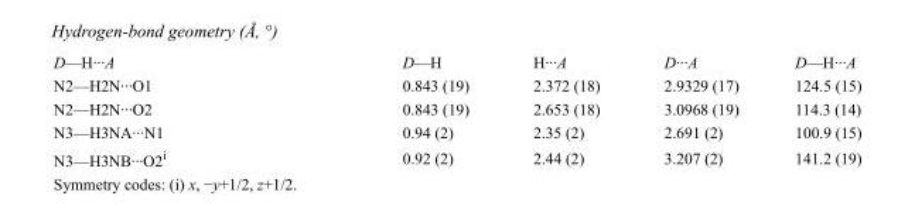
<table><tbody><tr><td>D—H···A</td><td>D—H</td><td>H···A</td><td>D···A</td><td>D—H···A</td></tr><tr><td>N2—H2N···O1</td><td>0.843 (19)</td><td>2.372 (18)</td><td>2.9329 (17)</td><td>124.5 (15)</td></tr><tr><td>N2—H2N···O2</td><td>0.843 (19)</td><td>2.653 (18)</td><td>3.0968 (19)</td><td>114.3 (14)</td></tr><tr><td>N3—H3NA···N1</td><td>0.94 (2)</td><td>2.35 (2)</td><td>2.691 (2)</td><td>100.9 (15)</td></tr><tr><td>N3—H3NB···O2<sup>i</sup></td><td>0.92 (2)</td><td>2.44 (2)</td><td>3.207 (2)</td><td>141.2 (19)</td></tr></tbody></table>